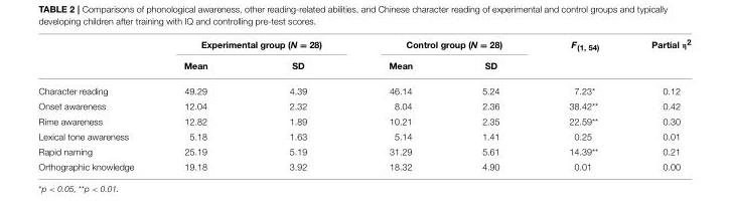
<table><thead><tr><td rowspan="2"></td><td colspan="2">Experimental group (N = 28)</td><td colspan="2">Control group (N = 28)</td><td rowspan="2">F<sub>(1, 54)</sub></td><td rowspan="2">Partial η<sup>2</sup></td></tr><tr><td>Mean</td><td>SD</td><td>Mean</td><td>SD</td></tr></thead><tbody><tr><td>Character reading</td><td>49.29</td><td>4.39</td><td>46.14</td><td>5.24</td><td>7.23*</td><td>0.12</td></tr><tr><td>Onset awareness</td><td>12.04</td><td>2.32</td><td>8.04</td><td>2.36</td><td>38.42**</td><td>0.42</td></tr><tr><td>Rime awareness</td><td>12.82</td><td>1.89</td><td>10.21</td><td>2.35</td><td>22.59**</td><td>0.30</td></tr><tr><td>Lexical tone awareness</td><td>5.18</td><td>1.63</td><td>5.14</td><td>1.41</td><td>0.25</td><td>0.01</td></tr><tr><td>Rapid naming</td><td>25.19</td><td>5.19</td><td>31.29</td><td>5.61</td><td>14.39**</td><td>0.21</td></tr><tr><td>Orthographic knowledge</td><td>19.18</td><td>3.92</td><td>18.32</td><td>4.90</td><td>0.01</td><td>0.00</td></tr></tbody></table>